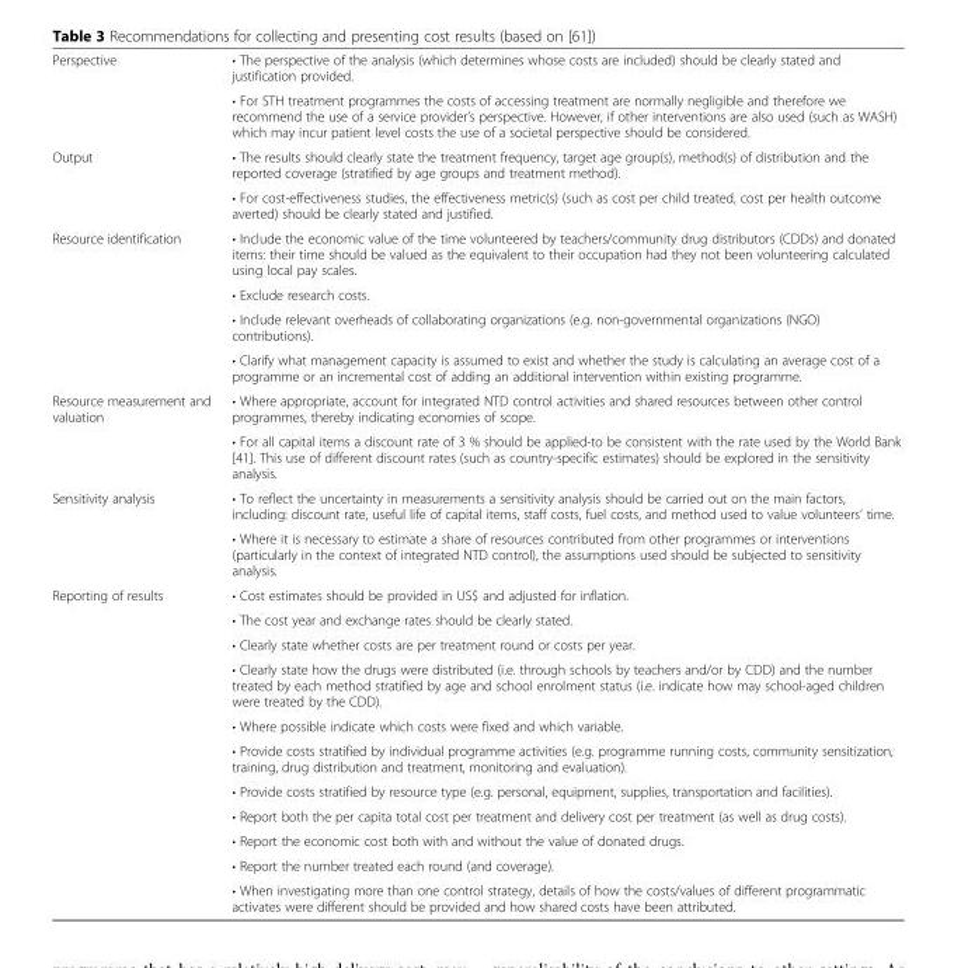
<table><tbody><tr><td rowspan="2">Perspective</td><td>• The perspective of the analysis (which determines whose costs are included) should be clearly stated and justification provided.</td></tr><tr><td>• For STH treatment programmes the costs of accessing treatment are normally negligible and therefore we recommend the use of a service provider’s perspective. However, if other interventions are also used (such as WASH) which may incur patient level costs the use of a societal perspective should be considered.</td></tr><tr><td rowspan="2">Output</td><td>• The results should clearly state the treatment frequency, target age group(s), method(s) of distribution and the reported coverage (stratified by age groups and treatment method).</td></tr><tr><td>• For cost-effectiveness studies, the effectiveness metric(s) (such as cost per child treated, cost per health outcome averted) should be clearly stated and justified.</td></tr><tr><td rowspan="4">Resource identification</td><td>• Include the economic value of the time volunteered by teachers/community drug distributors (CDDs) and donated items: their time should be valued as the equivalent to their occupation had they not been volunteering calculated using local pay scales.</td></tr><tr><td>• Exclude research costs.</td></tr><tr><td>• Include relevant overheads of collaborating organizations (e.g. non-governmental organizations (NGO) contributions).</td></tr><tr><td>• Clarify what management capacity is assumed to exist and whether the study is calculating an average cost of a programme or an incremental cost of adding an additional intervention within existing programme.</td></tr><tr><td rowspan="2">Resource measurement and valuation</td><td>• Where appropriate, account for integrated NTD control activities and shared resources between other control programmes, thereby indicating economies of scope.</td></tr><tr><td>• For all capital items a discount rate of 3 % should be applied-to be consistent with the rate used by the World Bank [41]. This use of different discount rates (such as country-specific estimates) should be explored in the sensitivity analysis.</td></tr><tr><td rowspan="2">Sensitivity analysis</td><td>• To reflect the uncertainty in measurements a sensitivity analysis should be carried out on the main factors, including: discount rate, useful life of capital items, staff costs, fuel costs, and method used to value volunteers’ time.</td></tr><tr><td>• Where it is necessary to estimate a share of resources contributed from other programmes or interventions (particularly in the context of integrated NTD control), the assumptions used should be subjected to sensitivity analysis.</td></tr><tr><td rowspan="11">Reporting of results</td><td>• Cost estimates should be provided in US$ and adjusted for inflation.</td></tr><tr><td>• The cost year and exchange rates should be clearly stated.</td></tr><tr><td>• Clearly state whether costs are per treatment round or costs per year.</td></tr><tr><td>• Clearly state how the drugs were distributed (i.e. through schools by teachers and/or by CDD) and the number treated by each method stratified by age and school enrolment status (i.e. indicate how may school-aged children were treated by the CDD).</td></tr><tr><td>• Where possible indicate which costs were fixed and which variable.</td></tr><tr><td>• Provide costs stratified by individual programme activities (e.g. programme running costs, community sensitization, training, drug distribution and treatment, monitoring and evaluation).</td></tr><tr><td>• Provide costs stratified by resource type (e.g. personal, equipment, supplies, transportation and facilities).</td></tr><tr><td>• Report both the per capita total cost per treatment and delivery cost per treatment (as well as drug costs).</td></tr><tr><td>• Report the economic cost both with and without the value of donated drugs.</td></tr><tr><td>• Report the number treated each round (and coverage).</td></tr><tr><td>• When investigating more than one control strategy, details of how the costs/values of different programmatic activates were different should be provided and how shared costs have been attributed.</td></tr></tbody></table>